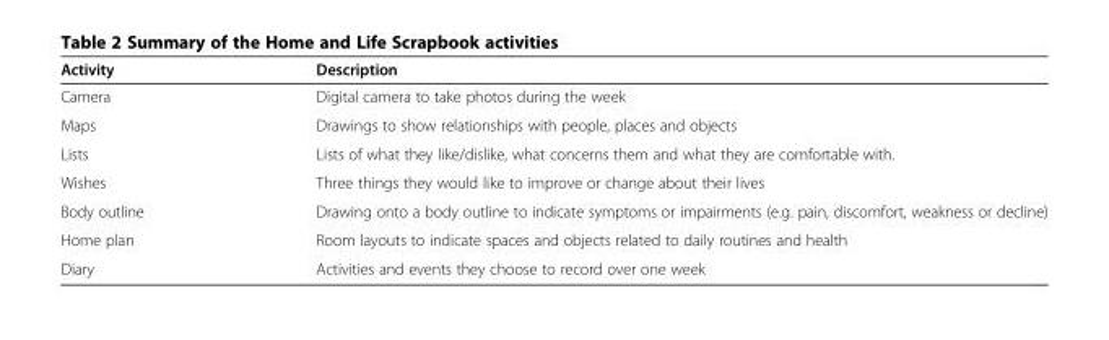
<table><thead><tr><td>Activity</td><td>Description</td></tr></thead><tbody><tr><td>Camera</td><td>Digital camera to take photos during the week</td></tr><tr><td>Maps</td><td>Drawings to show relationships with people, places and objects</td></tr><tr><td>Lists</td><td>Lists of what they like/dislike, what concerns them and what they are comfortable with.</td></tr><tr><td>Wishes</td><td>Three things they would like to improve or change about their lives</td></tr><tr><td>Body outline</td><td>Drawing onto a body outline to indicate symptoms or impairments (e.g. pain, discomfort, weakness or decline)</td></tr><tr><td>Home plan</td><td>Room layouts to indicate spaces and objects related to daily routines and health</td></tr><tr><td>Diary</td><td>Activities and events they choose to record over one week</td></tr></tbody></table>